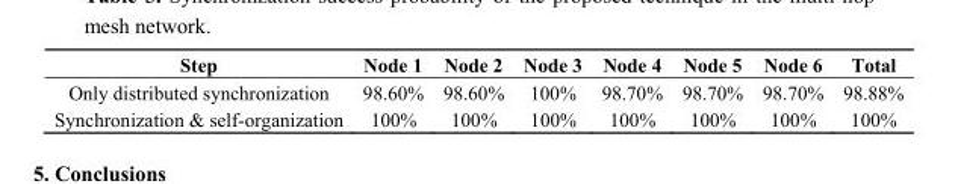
<table><thead><tr><td>Step</td><td>Node 1</td><td>Node 2</td><td>Node 3</td><td>Node 4</td><td>Node 5</td><td>Node 6</td><td>Total</td></tr></thead><tbody><tr><td>Only distributed synchronization</td><td>98.60%</td><td>98.60%</td><td>100%</td><td>98.70%</td><td>98.70%</td><td>98.70%</td><td>98.88%</td></tr><tr><td>Synchronization &amp; self-organization</td><td>100%</td><td>100%</td><td>100%</td><td>100%</td><td>100%</td><td>100%</td><td>100%</td></tr></tbody></table>